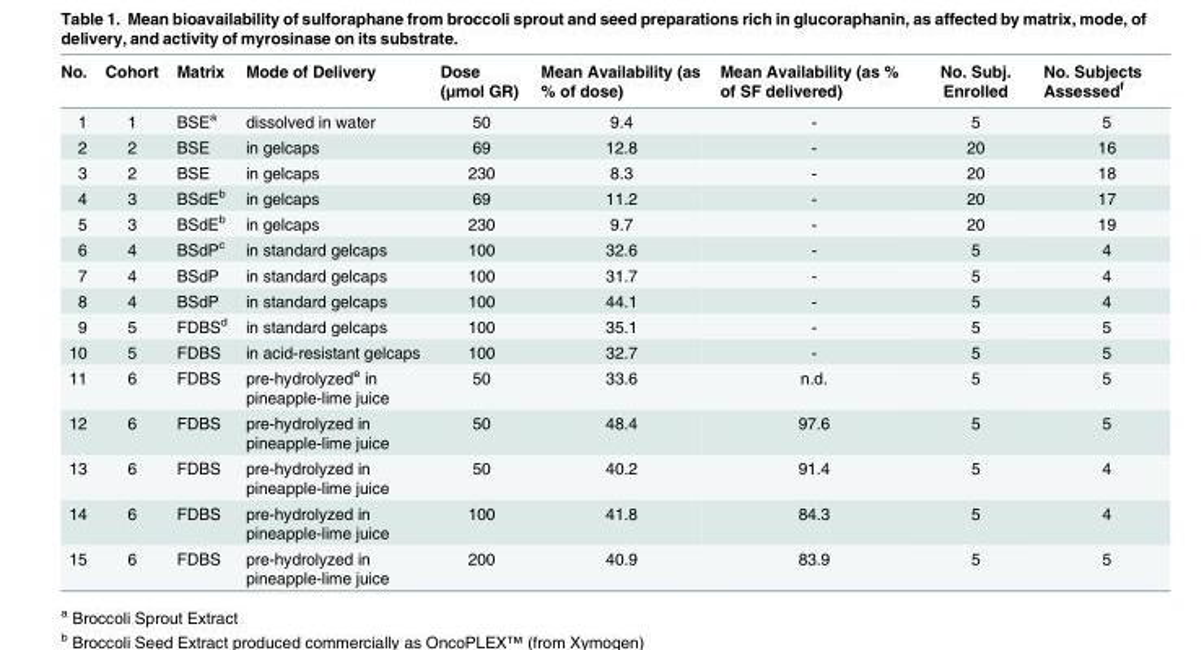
<table><thead><tr><td>No.</td><td>Cohort</td><td>Matrix</td><td>Mode of Delivery</td><td>Dose (μmol GR)</td><td>Mean Availability (as % of dose)</td><td>Mean Availability (as % of SF delivered)</td><td>No. Subj. Enrolled</td><td>No. Subjects Assessed<sup>f</sup></td></tr></thead><tbody><tr><td>1</td><td>1</td><td>BSE<sup>a</sup></td><td>dissolved in water</td><td>50</td><td>9.4</td><td>-</td><td>5</td><td>5</td></tr><tr><td>2</td><td>2</td><td>BSE</td><td>in gelcaps</td><td>69</td><td>12.8</td><td>-</td><td>20</td><td>16</td></tr><tr><td>3</td><td>2</td><td>BSE</td><td>in gelcaps</td><td>230</td><td>8.3</td><td>-</td><td>20</td><td>18</td></tr><tr><td>4</td><td>3</td><td>BSdE<sup>b</sup></td><td>in gelcaps</td><td>69</td><td>11.2</td><td>-</td><td>20</td><td>17</td></tr><tr><td>5</td><td>3</td><td>BSdE<sup>b</sup></td><td>in gelcaps</td><td>230</td><td>9.7</td><td>-</td><td>20</td><td>19</td></tr><tr><td>6</td><td>4</td><td>BSdP<sup>c</sup></td><td>in standard gelcaps</td><td>100</td><td>32.6</td><td>-</td><td>5</td><td>4</td></tr><tr><td>7</td><td>4</td><td>BSdP</td><td>in standard gelcaps</td><td>100</td><td>31.7</td><td>-</td><td>5</td><td>4</td></tr><tr><td>8</td><td>4</td><td>BSdP</td><td>in standard gelcaps</td><td>100</td><td>44.1</td><td>-</td><td>5</td><td>4</td></tr><tr><td>9</td><td>5</td><td>FDBS<sup>d</sup></td><td>in standard gelcaps</td><td>100</td><td>35.1</td><td>-</td><td>5</td><td>5</td></tr><tr><td>10</td><td>5</td><td>FDBS</td><td>in acid-resistant gelcaps</td><td>100</td><td>32.7</td><td>-</td><td>5</td><td>5</td></tr><tr><td>11</td><td>6</td><td>FDBS</td><td>pre-hydrolyzed<sup>e</sup> in pineapple-lime juice</td><td>50</td><td>33.6</td><td>n.d.</td><td>5</td><td>5</td></tr><tr><td>12</td><td>6</td><td>FDBS</td><td>pre-hydrolyzed in pineapple-lime juice</td><td>50</td><td>48.4</td><td>97.6</td><td>5</td><td>5</td></tr><tr><td>13</td><td>6</td><td>FDBS</td><td>pre-hydrolyzed in pineapple-lime juice</td><td>50</td><td>40.2</td><td>91.4</td><td>5</td><td>4</td></tr><tr><td>14</td><td>6</td><td>FDBS</td><td>pre-hydrolyzed in pineapple-lime juice</td><td>100</td><td>41.8</td><td>84.3</td><td>5</td><td>4</td></tr><tr><td>15</td><td>6</td><td>FDBS</td><td>pre-hydrolyzed in pineapple-lime juice</td><td>200</td><td>40.9</td><td>83.9</td><td>5</td><td>5</td></tr></tbody></table>